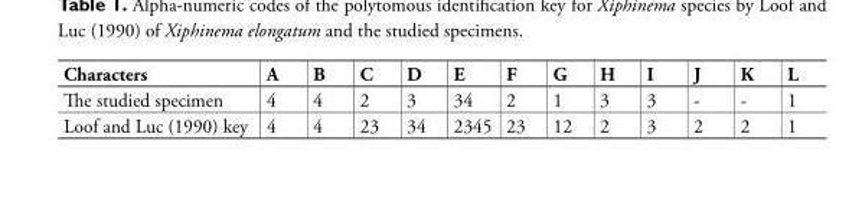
<table><thead><tr><td>Characters</td><td>A</td><td>B</td><td>C</td><td>D</td><td>E</td><td>F</td><td>G</td><td>H</td><td>I</td><td>J</td><td>K</td><td>L</td></tr></thead><tbody><tr><td>The studied specimen</td><td>4</td><td>4</td><td>2</td><td>3</td><td>34</td><td>2</td><td>1</td><td>3</td><td>3</td><td>-</td><td>-</td><td>1</td></tr><tr><td>Loof and Luc (1990) key</td><td>4</td><td>4</td><td>23</td><td>34</td><td>2345</td><td>23</td><td>12</td><td>2</td><td>3</td><td>2</td><td>2</td><td>1</td></tr></tbody></table>